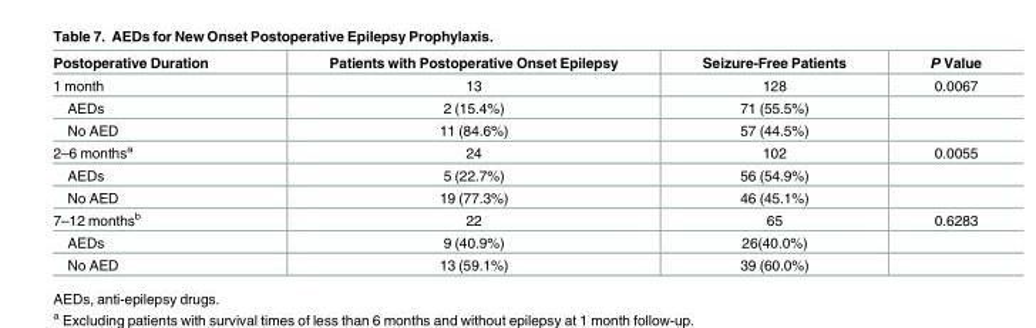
<table><thead><tr><td>Postoperative Duration</td><td>Patients with Postoperative Onset Epilepsy</td><td>Seizure-Free Patients</td><td>P Value</td></tr></thead><tbody><tr><td>1 month</td><td>13</td><td>128</td><td>0.0067</td></tr><tr><td>AEDs</td><td>2 (15.4%)</td><td>71 (55.5%)</td><td></td></tr><tr><td>No AED</td><td>11 (84.6%)</td><td>57 (44.5%)</td><td></td></tr><tr><td>2–6 months<sup>a</sup></td><td>24</td><td>102</td><td>0.0055</td></tr><tr><td>AEDs</td><td>5 (22.7%)</td><td>56 (54.9%)</td><td></td></tr><tr><td>No AED</td><td>19 (77.3%)</td><td>46 (45.1%)</td><td></td></tr><tr><td>7–12 months<sup>b</sup></td><td>22</td><td>65</td><td>0.6283</td></tr><tr><td>AEDs</td><td>9 (40.9%)</td><td>26(40.0%)</td><td></td></tr><tr><td>No AED</td><td>13 (59.1%)</td><td>39 (60.0%)</td><td></td></tr></tbody></table>